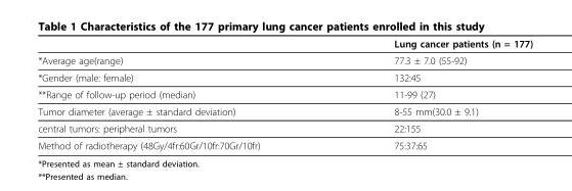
<table><thead><tr><td></td><td>Lung cancer patients (n = 177)</td></tr></thead><tbody><tr><td>*Average age(range)</td><td>77.3 ± 7.0 (55-92)</td></tr><tr><td>*Gender (male: female)</td><td>132:45</td></tr><tr><td>**Range of follow-up period (median)</td><td>11-99 (27)</td></tr><tr><td>Tumor diameter (average ± standard deviation)</td><td>8-55 mm(30.0 ± 9.1)</td></tr><tr><td>central tumors: peripheral tumors</td><td>22:155</td></tr><tr><td>Method of radiotherapy (48Gy/4fr:60Gr/10fr:70Gr/10fr)</td><td>75:37:65</td></tr></tbody></table>